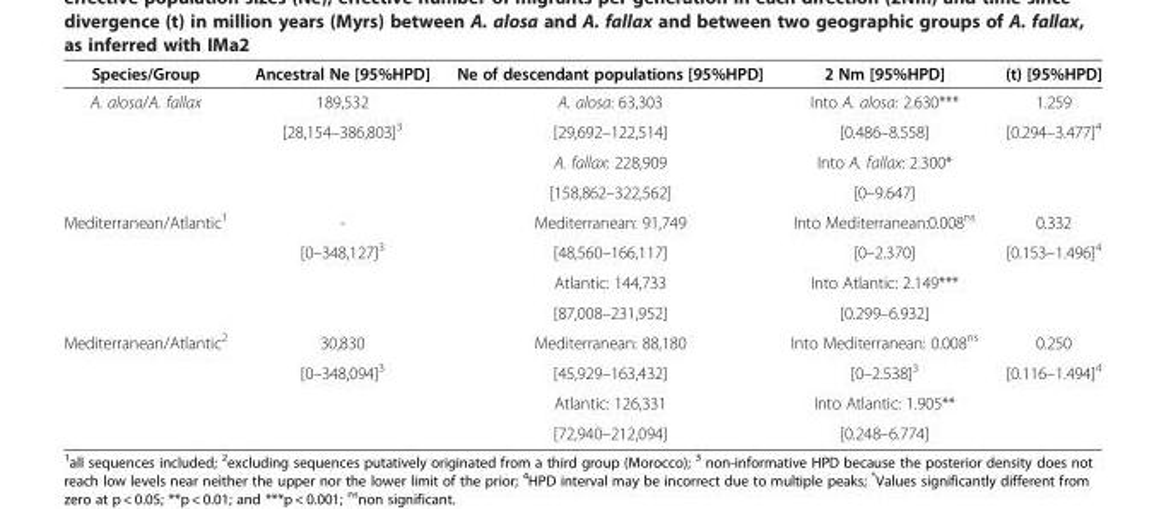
<table><thead><tr><td>Species/Group</td><td>Ancestral Ne [95%HPD]</td><td>Ne of descendant populations [95%HPD]</td><td>2 Nm [95%HPD]</td><td>(t) [95%HPD]</td></tr></thead><tbody><tr><td rowspan="4">A. alosa/A. fallax</td><td>189,532</td><td>A. alosa: 63,303</td><td>Into A. alosa: 2.630***</td><td>1.259</td></tr><tr><td>[28,154–386,803]<sup>3</sup></td><td>[29,692–122,514]</td><td>[0.486–8.558]</td><td>[0.294–3.477]<sup>4</sup></td></tr><tr><td></td><td>A. fallax: 228,909</td><td>Into A. fallax: 2.300*</td><td></td></tr><tr><td></td><td>[158,862–322,562]</td><td>[0–9.647]</td><td></td></tr><tr><td rowspan="4">Mediterranean/Atlantic<sup>1</sup></td><td>-</td><td>Mediterranean: 91,749</td><td>Into Mediterranean:0.008<sup>ns</sup></td><td>0.332</td></tr><tr><td>[0–348,127]<sup>3</sup></td><td>[48,560–166,117]</td><td>[0–2.370]</td><td>[0.153–1.496]<sup>4</sup></td></tr><tr><td></td><td>Atlantic: 144,733</td><td>Into Atlantic: 2.149***</td><td></td></tr><tr><td></td><td>[87,008–231,952]</td><td>[0.299–6.932]</td><td></td></tr><tr><td rowspan="4">Mediterranean/Atlantic<sup>2</sup></td><td>30,830</td><td>Mediterranean: 88,180</td><td>Into Mediterranean: 0.008<sup>ns</sup></td><td>0.250</td></tr><tr><td>[0–348,094]<sup>3</sup></td><td>[45,929–163,432]</td><td>[0–2.538]<sup>3</sup></td><td>[0.116–1.494]<sup>4</sup></td></tr><tr><td></td><td>Atlantic: 126,331</td><td>Into Atlantic: 1.905**</td><td></td></tr><tr><td></td><td>[72,940–212,094]</td><td>[0.248–6.774]</td><td></td></tr></tbody></table>